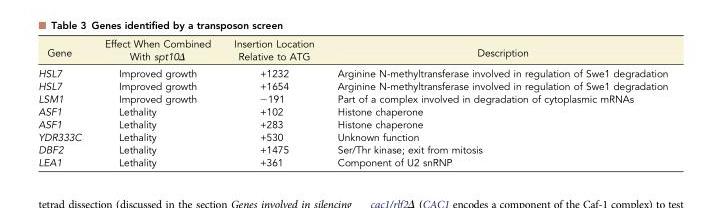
<table><thead><tr><td>Gene</td><td>Effect When Combined With spt10Δ</td><td>Insertion Location Relative to ATG</td><td>Description</td></tr></thead><tbody><tr><td>HSL7</td><td>Improved growth</td><td>+1232</td><td>Arginine N-methyltransferase involved in regulation of Swe1 degradation</td></tr><tr><td>HSL7</td><td>Improved growth</td><td>+1654</td><td>Arginine N-methyltransferase involved in regulation of Swe1 degradation</td></tr><tr><td>LSM1</td><td>Improved growth</td><td>−191</td><td>Part of a complex involved in degradation of cytoplasmic mRNAs</td></tr><tr><td>ASF1</td><td>Lethality</td><td>+102</td><td>Histone chaperone</td></tr><tr><td>ASF1</td><td>Lethality</td><td>+283</td><td>Histone chaperone</td></tr><tr><td>YDR333C</td><td>Lethality</td><td>+530</td><td>Unknown function</td></tr><tr><td>DBF2</td><td>Lethality</td><td>+1475</td><td>Ser/Thr kinase; exit from mitosis</td></tr><tr><td>LEA1</td><td>Lethality</td><td>+361</td><td>Component of U2 snRNP</td></tr></tbody></table>